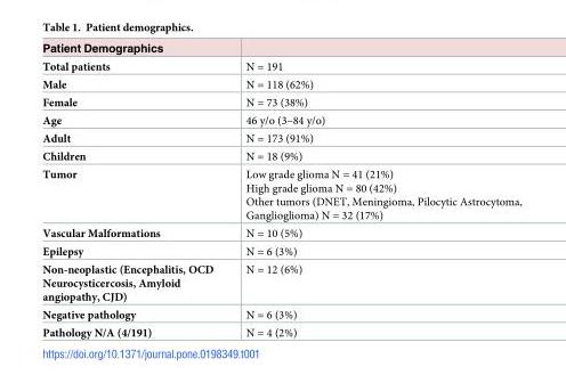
<table><thead><tr><td>Patient Demographics</td><td></td></tr></thead><tbody><tr><td>Total patients</td><td>N = 191</td></tr><tr><td>Male</td><td>N = 118 (62%)</td></tr><tr><td>Female</td><td>N = 73 (38%)</td></tr><tr><td>Age</td><td>46 y/o (3–84 y/o)</td></tr><tr><td>Adult</td><td>N = 173 (91%)</td></tr><tr><td>Children</td><td>N = 18 (9%)</td></tr><tr><td>Tumor</td><td>Low grade glioma N = 41 (21%) High grade glioma N = 80 (42%) Other tumors (DNET, Meningioma, Pilocytic Astrocytoma, Ganglioglioma) N = 32 (17%)</td></tr><tr><td>Vascular Malformations</td><td>N = 10 (5%)</td></tr><tr><td>Epilepsy</td><td>N = 6 (3%)</td></tr><tr><td>Non-neoplastic (Encephalitis, OCD Neurocysticercosis, Amyloid angiopathy, CJD)</td><td>N = 12 (6%)</td></tr><tr><td>Negative pathology</td><td>N = 6 (3%)</td></tr><tr><td>Pathology N/A (4/191)</td><td>N = 4 (2%)</td></tr></tbody></table>